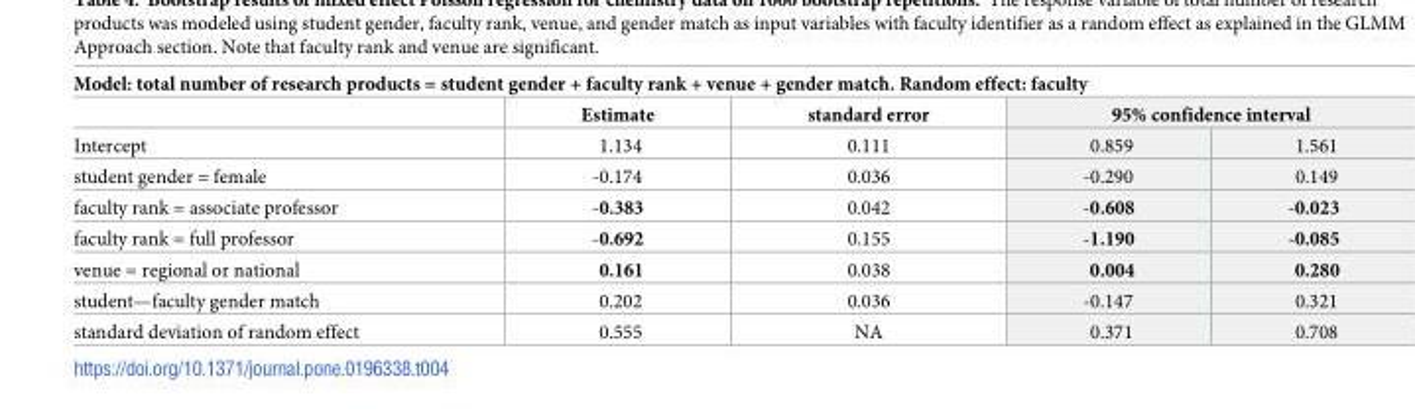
<table><thead><tr><td colspan="5">Model: total number of research products = student gender + faculty rank + venue + gender match. Random effect: faculty</td></tr><tr><td rowspan="2">Intercept</td><td rowspan="2">Estimate 1.134</td><td rowspan="2">standard error 0.111</td><td colspan="2">95% confidence interval</td></tr><tr><td>0.859</td><td>1.561</td></tr></thead><tbody><tr><td>student gender = female</td><td>-0.174</td><td>0.036</td><td>-0.290</td><td>0.149</td></tr><tr><td>faculty rank = associate professor</td><td>-0.383</td><td>0.042</td><td>-0.608</td><td>-0.023</td></tr><tr><td>faculty rank = full professor</td><td>-0.692</td><td>0.155</td><td>-1.190</td><td>-0.085</td></tr><tr><td>venue = regional or national</td><td>0.161</td><td>0.038</td><td>0.004</td><td>0.280</td></tr><tr><td>student—faculty gender match</td><td>0.202</td><td>0.036</td><td>-0.147</td><td>0.321</td></tr><tr><td>standard deviation of random effect</td><td>0.555</td><td>NA</td><td>0.371</td><td>0.708</td></tr></tbody></table>